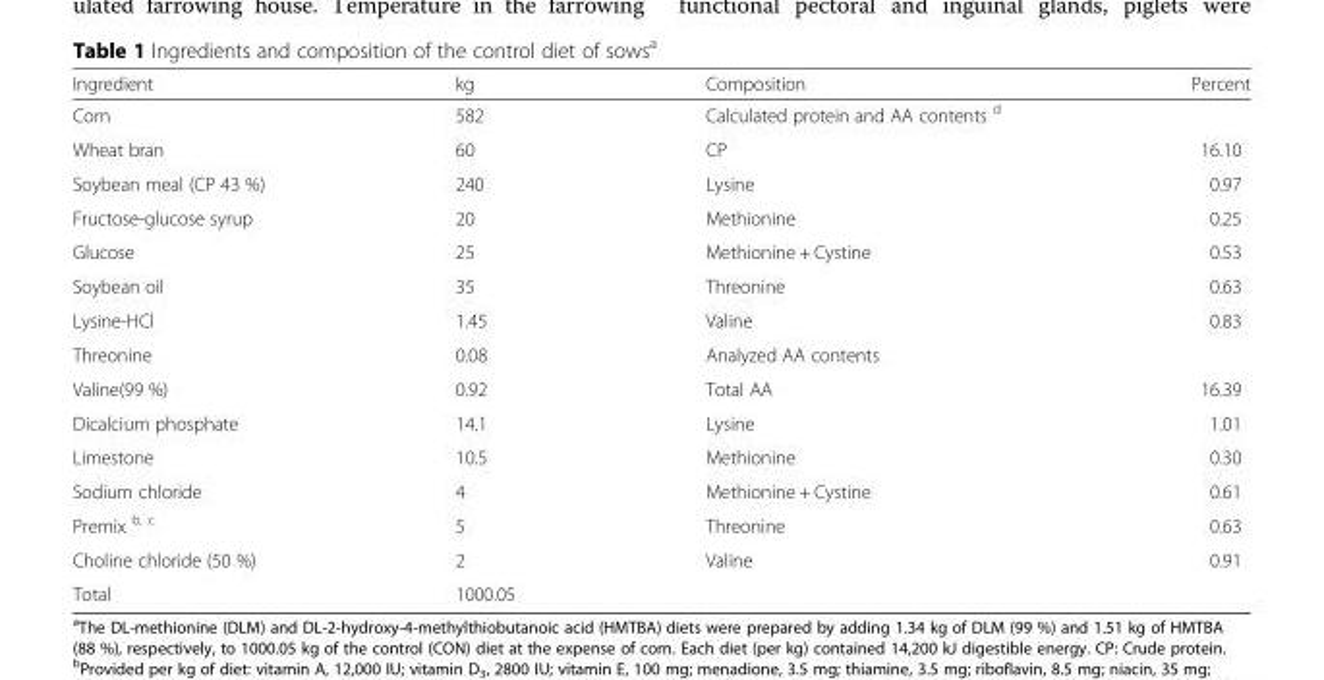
<table><thead><tr><td>Ingredient</td><td>kg</td><td>Composition</td><td>Percent</td></tr></thead><tbody><tr><td>Corn</td><td>582</td><td>Calculated protein and AA contents <sup>d</sup></td><td></td></tr><tr><td>Wheat bran</td><td>60</td><td>CP</td><td>16.10</td></tr><tr><td>Soybean meal (CP 43 %)</td><td>240</td><td>Lysine</td><td>0.97</td></tr><tr><td>Fructose-glucose syrup</td><td>20</td><td>Methionine</td><td>0.25</td></tr><tr><td>Glucose</td><td>25</td><td>Methionine + Cystine</td><td>0.53</td></tr><tr><td>Soybean oil</td><td>35</td><td>Threonine</td><td>0.63</td></tr><tr><td>Lysine-HCl</td><td>1.45</td><td>Valine</td><td>0.83</td></tr><tr><td>Threonine</td><td>0.08</td><td>Analyzed AA contents</td><td></td></tr><tr><td>Valine(99 %)</td><td>0.92</td><td>Total AA</td><td>16.39</td></tr><tr><td>Dicalcium phosphate</td><td>14.1</td><td>Lysine</td><td>1.01</td></tr><tr><td>Limestone</td><td>10.5</td><td>Methionine</td><td>0.30</td></tr><tr><td>Sodium chloride</td><td>4</td><td>Methionine + Cystine</td><td>0.61</td></tr><tr><td>Premix <sup>b, c</sup></td><td>5</td><td>Threonine</td><td>0.63</td></tr><tr><td>Choline chloride (50 %)</td><td>2</td><td>Valine</td><td>0.91</td></tr><tr><td>Total</td><td>1000.05</td><td></td><td></td></tr></tbody></table>